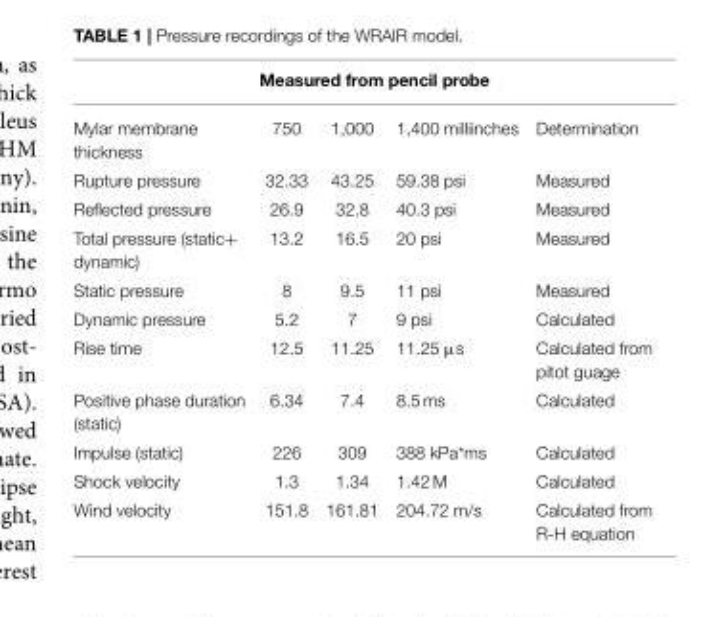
<table><thead><tr><td colspan="5">Measured from pencil probe</td></tr><tr><td>Mylar membrane thickness</td><td>750</td><td>1,000</td><td>1,400 milliinches</td><td>Determination</td></tr></thead><tbody><tr><td>Rupture pressure</td><td>32.33</td><td>43.25</td><td>59.38 psi</td><td>Measured</td></tr><tr><td>Reflected pressure</td><td>26.9</td><td>32.8</td><td>40.3 psi</td><td>Measured</td></tr><tr><td>Total pressure (static+ dynamic)</td><td>13.2</td><td>16.5</td><td>20 psi</td><td>Measured</td></tr><tr><td>Static pressure</td><td>8</td><td>9.5</td><td>11 psi</td><td>Measured</td></tr><tr><td>Dynamic pressure</td><td>5.2</td><td>7</td><td>9 psi</td><td>Calculated</td></tr><tr><td>Rise time</td><td>12.5</td><td>11.25</td><td>11.25 µs</td><td>Calculated from pitot guage</td></tr><tr><td>Positive phase duration (static)</td><td>6.34</td><td>7.4</td><td>8.5 ms</td><td>Calculated</td></tr><tr><td>Impulse (static)</td><td>226</td><td>309</td><td>388 kPa*ms</td><td>Calculated</td></tr><tr><td>Shock velocity</td><td>1.3</td><td>1.34</td><td>1.42 M</td><td>Calculated</td></tr><tr><td>Wind velocity</td><td>151.8</td><td>161.81</td><td>204.72 m/s</td><td>Calculated from R-H equation</td></tr></tbody></table>